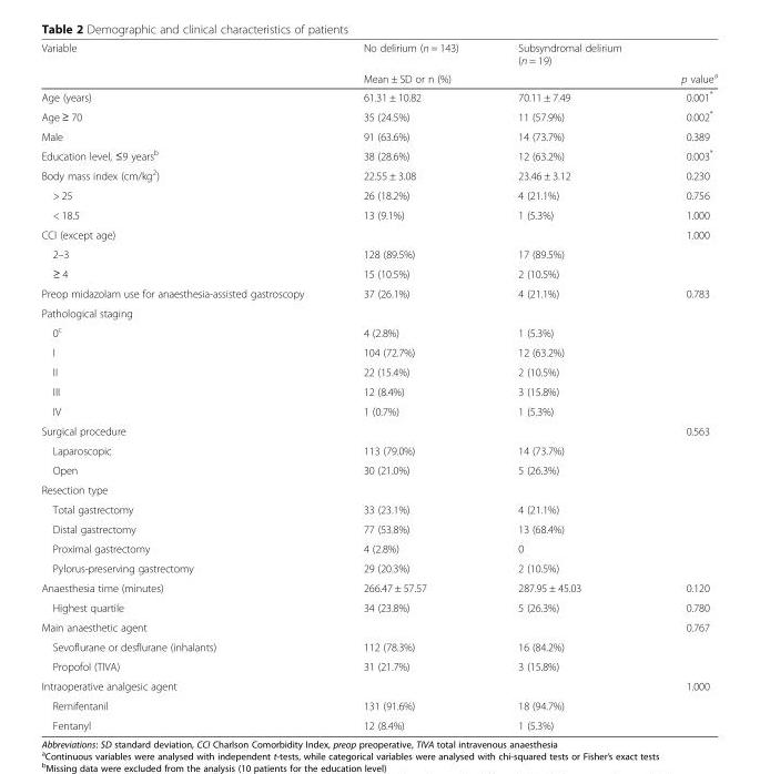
<table><thead><tr><td rowspan="2">Variable</td><td>No delirium (n = 143)</td><td>Subsyndromal delirium (n = 19)</td><td rowspan="2">p value<sup>a</sup></td></tr><tr><td colspan="2">Mean ± SD or n (%)</td></tr></thead><tbody><tr><td>Age (years)</td><td>61.31 ± 10.82</td><td>70.11 ± 7.49</td><td>0.001*</td></tr><tr><td>Age ≥ 70</td><td>35 (24.5%)</td><td>11 (57.9%)</td><td>0.002*</td></tr><tr><td>Male</td><td>91 (63.6%)</td><td>14 (73.7%)</td><td>0.389</td></tr><tr><td>Education level, ≤9 years<sup>b</sup></td><td>38 (28.6%)</td><td>12 (63.2%)</td><td>0.003*</td></tr><tr><td>Body mass index (cm/kg<sup>2</sup>)</td><td>22.55 ± 3.08</td><td>23.46 ± 3.12</td><td>0.230</td></tr><tr><td>&gt; 25</td><td>26 (18.2%)</td><td>4 (21.1%)</td><td>0.756</td></tr><tr><td>&lt; 18.5</td><td>13 (9.1%)</td><td>1 (5.3%)</td><td>1.000</td></tr><tr><td>CCI (except age)</td><td></td><td></td><td>1.000</td></tr><tr><td>2–3</td><td>128 (89.5%)</td><td>17 (89.5%)</td><td></td></tr><tr><td>≥ 4</td><td>15 (10.5%)</td><td>2 (10.5%)</td><td></td></tr><tr><td>Preop midazolam use for anaesthesia-assisted gastroscopy</td><td>37 (26.1%)</td><td>4 (21.1%)</td><td>0.783</td></tr><tr><td colspan="4">Pathological staging</td></tr><tr><td>0<sup>c</sup></td><td>4 (2.8%)</td><td>1 (5.3%)</td><td></td></tr><tr><td>I</td><td>104 (72.7%)</td><td>12 (63.2%)</td><td></td></tr><tr><td>II</td><td>22 (15.4%)</td><td>2 (10.5%)</td><td></td></tr><tr><td>III</td><td>12 (8.4%)</td><td>3 (15.8%)</td><td></td></tr><tr><td>IV</td><td>1 (0.7%)</td><td>1 (5.3%)</td><td></td></tr><tr><td>Surgical procedure</td><td></td><td></td><td>0.563</td></tr><tr><td>Laparoscopic</td><td>113 (79.0%)</td><td>14 (73.7%)</td><td></td></tr><tr><td>Open</td><td>30 (21.0%)</td><td>5 (26.3%)</td><td></td></tr><tr><td colspan="4">Resection type</td></tr><tr><td>Total gastrectomy</td><td>33 (23.1%)</td><td>4 (21.1%)</td><td></td></tr><tr><td>Distal gastrectomy</td><td>77 (53.8%)</td><td>13 (68.4%)</td><td></td></tr><tr><td>Proximal gastrectomy</td><td>4 (2.8%)</td><td>0</td><td></td></tr><tr><td>Pylorus-preserving gastrectomy</td><td>29 (20.3%)</td><td>2 (10.5%)</td><td></td></tr><tr><td>Anaesthesia time (minutes)</td><td>266.47 ± 57.57</td><td>287.95 ± 45.03</td><td>0.120</td></tr><tr><td>Highest quartile</td><td>34 (23.8%)</td><td>5 (26.3%)</td><td>0.780</td></tr><tr><td>Main anaesthetic agent</td><td></td><td></td><td>0.767</td></tr><tr><td>Sevoflurane or desflurane (inhalants)</td><td>112 (78.3%)</td><td>16 (84.2%)</td><td></td></tr><tr><td>Propofol (TIVA)</td><td>31 (21.7%)</td><td>3 (15.8%)</td><td></td></tr><tr><td>Intraoperative analgesic agent</td><td></td><td></td><td>1.000</td></tr><tr><td>Remifentanil</td><td>131 (91.6%)</td><td>18 (94.7%)</td><td></td></tr><tr><td>Fentanyl</td><td>12 (8.4%)</td><td>1 (5.3%)</td><td></td></tr></tbody></table>